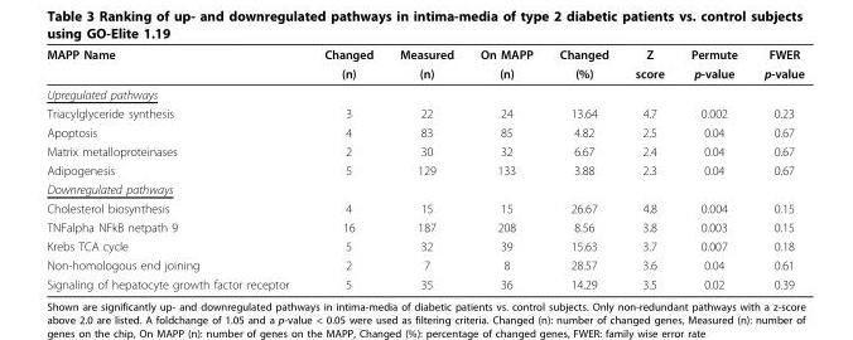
<table><thead><tr><td rowspan="2">MAPP Name</td><td rowspan="2">Changed (n)</td><td rowspan="2">Measured (n)</td><td rowspan="2">On MAPP (n)</td><td rowspan="2">Changed (%)</td><td rowspan="2">Z score</td><td rowspan="2">Permute p-value</td><td rowspan="2">FWER p-value</td></tr><tr></tr></thead><tbody><tr><td colspan="8">Upregulated pathways</td></tr><tr><td>Triacylglyceride synthesis</td><td>3</td><td>22</td><td>24</td><td>13.64</td><td>4.7</td><td>0.002</td><td>0.23</td></tr><tr><td>Apoptosis</td><td>4</td><td>83</td><td>85</td><td>4.82</td><td>2.5</td><td>0.04</td><td>0.67</td></tr><tr><td>Matrix metalloproteinases</td><td>2</td><td>30</td><td>32</td><td>6.67</td><td>2.4</td><td>0.04</td><td>0.67</td></tr><tr><td>Adipogenesis</td><td>5</td><td>129</td><td>133</td><td>3.88</td><td>2.3</td><td>0.04</td><td>0.67</td></tr><tr><td colspan="8">Downregulated pathways</td></tr><tr><td>Cholesterol biosynthesis</td><td>4</td><td>15</td><td>15</td><td>26.67</td><td>4.8</td><td>0.004</td><td>0.15</td></tr><tr><td>TNFalpha NFkB netpath 9</td><td>16</td><td>187</td><td>208</td><td>8.56</td><td>3.8</td><td>0.003</td><td>0.15</td></tr><tr><td>Krebs TCA cycle</td><td>5</td><td>32</td><td>39</td><td>15.63</td><td>3.7</td><td>0.007</td><td>0.18</td></tr><tr><td>Non-homologous end joining</td><td>2</td><td>7</td><td>8</td><td>28.57</td><td>3.6</td><td>0.04</td><td>0.61</td></tr><tr><td>Signaling of hepatocyte growth factor receptor</td><td>5</td><td>35</td><td>36</td><td>14.29</td><td>3.5</td><td>0.02</td><td>0.39</td></tr></tbody></table>